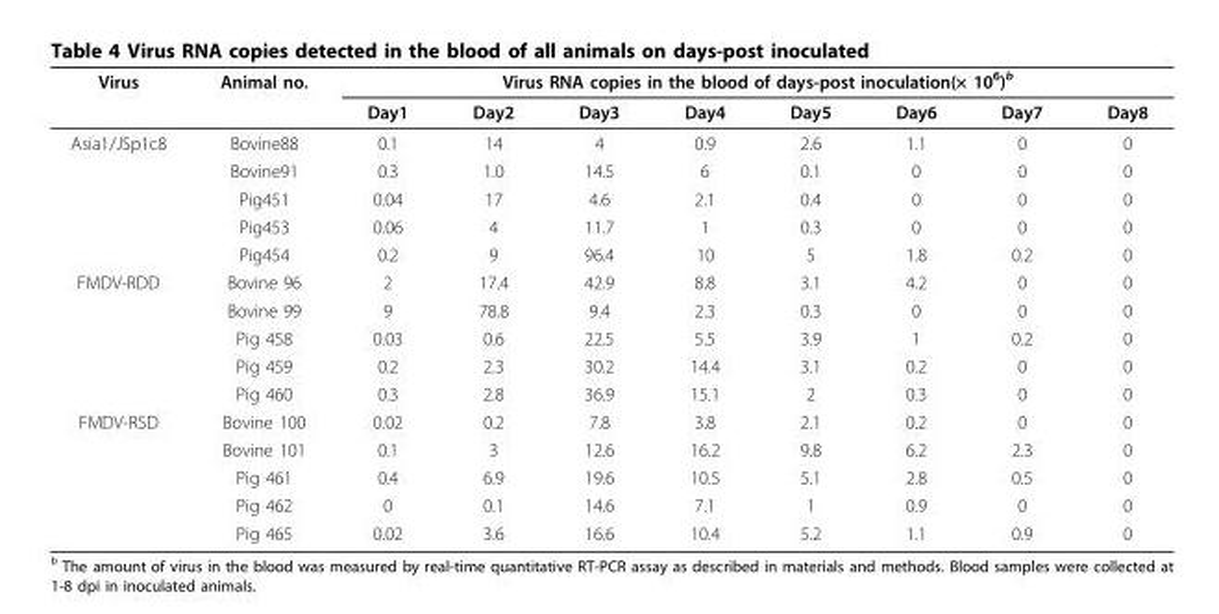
<table><thead><tr><td rowspan="2">Virus</td><td rowspan="2">Animal no.</td><td colspan="8">Virus RNA copies in the blood of days-post inoculation(× 10<sup>6</sup>)<sup>b</sup></td></tr><tr><td>Day1</td><td>Day2</td><td>Day3</td><td>Day4</td><td>Day5</td><td>Day6</td><td>Day7</td><td>Day8</td></tr></thead><tbody><tr><td rowspan="5">Asia1/JSp1c8</td><td>Bovine88</td><td>0.1</td><td>14</td><td>4</td><td>0.9</td><td>2.6</td><td>1.1</td><td>0</td><td>0</td></tr><tr><td>Bovine91</td><td>0.3</td><td>1.0</td><td>14.5</td><td>6</td><td>0.1</td><td>0</td><td>0</td><td>0</td></tr><tr><td>Pig451</td><td>0.04</td><td>17</td><td>4.6</td><td>2.1</td><td>0.4</td><td>0</td><td>0</td><td>0</td></tr><tr><td>Pig453</td><td>0.06</td><td>4</td><td>11.7</td><td>1</td><td>0.3</td><td>0</td><td>0</td><td>0</td></tr><tr><td>Pig454</td><td>0.2</td><td>9</td><td>96.4</td><td>10</td><td>5</td><td>1.8</td><td>0.2</td><td>0</td></tr><tr><td rowspan="5">FMDV-RDD</td><td>Bovine 96</td><td>2</td><td>17.4</td><td>42.9</td><td>8.8</td><td>3.1</td><td>4.2</td><td>0</td><td>0</td></tr><tr><td>Bovine 99</td><td>9</td><td>78.8</td><td>9.4</td><td>2.3</td><td>0.3</td><td>0</td><td>0</td><td>0</td></tr><tr><td>Pig 458</td><td>0.03</td><td>0.6</td><td>22.5</td><td>5.5</td><td>3.9</td><td>1</td><td>0.2</td><td>0</td></tr><tr><td>Pig 459</td><td>0.2</td><td>2.3</td><td>30.2</td><td>14.4</td><td>3.1</td><td>0.2</td><td>0</td><td>0</td></tr><tr><td>Pig 460</td><td>0.3</td><td>2.8</td><td>36.9</td><td>15.1</td><td>2</td><td>0.3</td><td>0</td><td>0</td></tr><tr><td rowspan="5">FMDV-RSD</td><td>Bovine 100</td><td>0.02</td><td>0.2</td><td>7.8</td><td>3.8</td><td>2.1</td><td>0.2</td><td>0</td><td>0</td></tr><tr><td>Bovine 101</td><td>0.1</td><td>3</td><td>12.6</td><td>16.2</td><td>9.8</td><td>6.2</td><td>2.3</td><td>0</td></tr><tr><td>Pig 461</td><td>0.4</td><td>6.9</td><td>19.6</td><td>10.5</td><td>5.1</td><td>2.8</td><td>0.5</td><td>0</td></tr><tr><td>Pig 462</td><td>0</td><td>0.1</td><td>14.6</td><td>7.1</td><td>1</td><td>0.9</td><td>0</td><td>0</td></tr><tr><td>Pig 465</td><td>0.02</td><td>3.6</td><td>16.6</td><td>10.4</td><td>5.2</td><td>1.1</td><td>0.9</td><td>0</td></tr></tbody></table>